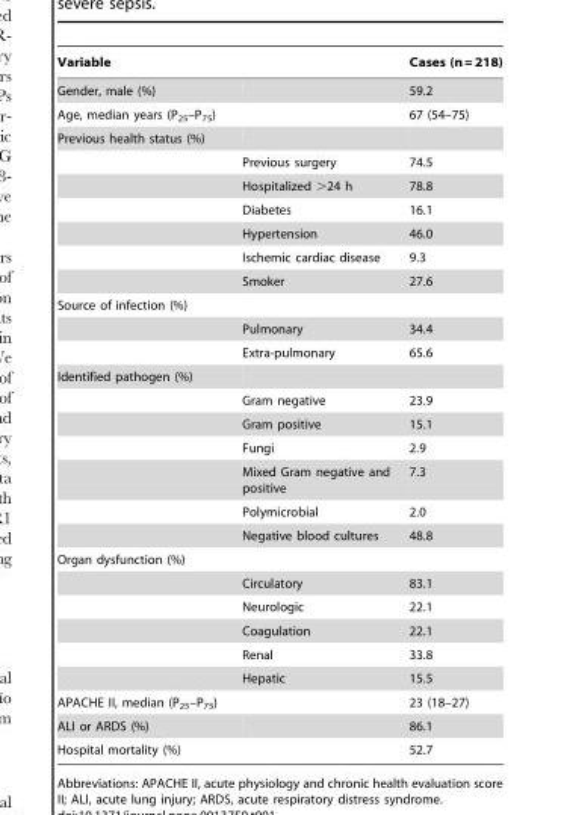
<table><thead><tr><td colspan="2">Variable</td><td rowspan="2">Cases (n = 218) 59.2</td></tr><tr><td>Gender, male (%)</td><td></td></tr></thead><tbody><tr><td>Age, median years (P<sub>25</sub>–P<sub>75</sub>)</td><td></td><td>67 (54–75)</td></tr><tr><td colspan="3">Previous health status (%)</td></tr><tr><td></td><td>Previous surgery</td><td>74.5</td></tr><tr><td></td><td>Hospitalized &gt;24 h</td><td>78.8</td></tr><tr><td></td><td>Diabetes</td><td>16.1</td></tr><tr><td></td><td>Hypertension</td><td>46.0</td></tr><tr><td></td><td>Ischemic cardiac disease</td><td>9.3</td></tr><tr><td></td><td>Smoker</td><td>27.6</td></tr><tr><td colspan="3">Source of infection (%)</td></tr><tr><td></td><td>Pulmonary</td><td>34.4</td></tr><tr><td></td><td>Extra-pulmonary</td><td>65.6</td></tr><tr><td colspan="3">Identified pathogen (%)</td></tr><tr><td></td><td>Gram negative</td><td>23.9</td></tr><tr><td></td><td>Gram positive</td><td>15.1</td></tr><tr><td></td><td>Fungi</td><td>2.9</td></tr><tr><td></td><td>Mixed Gram negative and positive</td><td>7.3</td></tr><tr><td></td><td>Polymicrobial</td><td>2.0</td></tr><tr><td></td><td>Negative blood cultures</td><td>48.8</td></tr><tr><td colspan="3">Organ dysfunction (%)</td></tr><tr><td></td><td>Circulatory</td><td>83.1</td></tr><tr><td></td><td>Neurologic</td><td>22.1</td></tr><tr><td></td><td>Coagulation</td><td>22.1</td></tr><tr><td></td><td>Renal</td><td>33.8</td></tr><tr><td></td><td>Hepatic</td><td>15.5</td></tr><tr><td>APACHE II, median (P<sub>25</sub>–P<sub>75</sub>)</td><td></td><td>23 (18–27)</td></tr><tr><td>ALI or ARDS (%)</td><td></td><td>86.1</td></tr><tr><td>Hospital mortality (%)</td><td></td><td>52.7</td></tr></tbody></table>